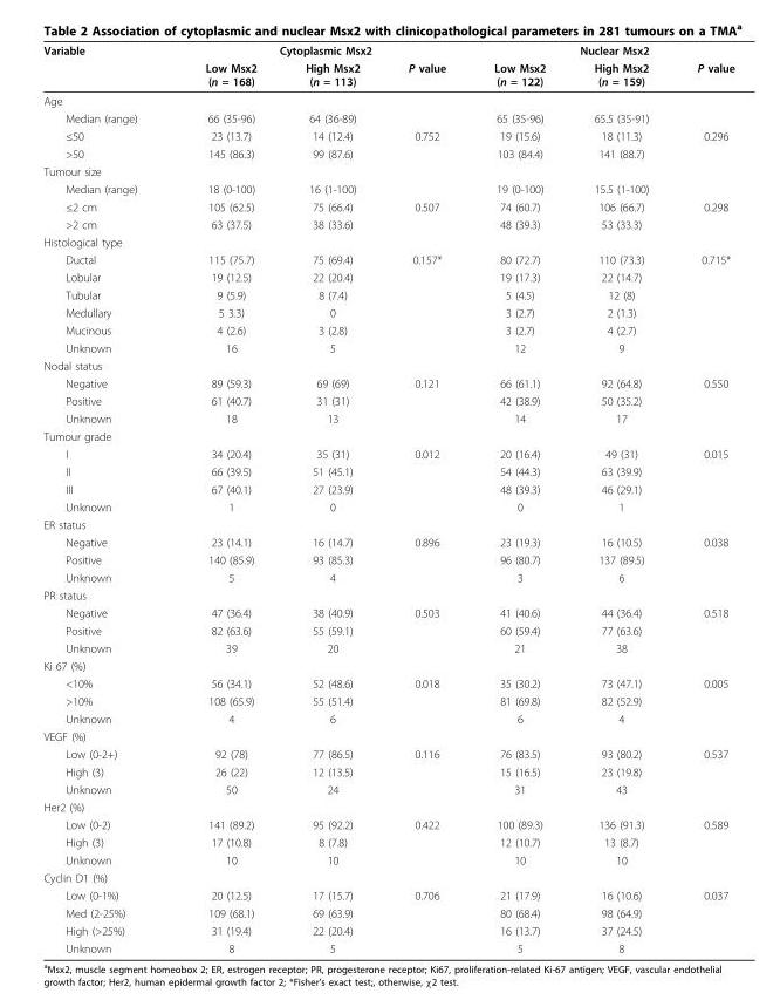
<table><thead><tr><td rowspan="2">Variable</td><td colspan="3">Cytoplasmic Msx2</td><td colspan="3">Nuclear Msx2</td></tr><tr><td>Low Msx2 (n = 168)</td><td>High Msx2 (n = 113)</td><td>P value</td><td>Low Msx2 (n = 122)</td><td>High Msx2 (n = 159)</td><td>P value</td></tr></thead><tbody><tr><td colspan="7">Age</td></tr><tr><td>Median (range)</td><td>66 (35-96)</td><td>64 (36-89)</td><td></td><td>65 (35-96)</td><td>65.5 (35-91)</td><td></td></tr><tr><td>≤50</td><td>23 (13.7)</td><td>14 (12.4)</td><td>0.752</td><td>19 (15.6)</td><td>18 (11.3)</td><td>0.296</td></tr><tr><td>&gt;50</td><td>145 (86.3)</td><td>99 (87.6)</td><td></td><td>103 (84.4)</td><td>141 (88.7)</td><td></td></tr><tr><td colspan="7">Tumour size</td></tr><tr><td>Median (range)</td><td>18 (0-100)</td><td>16 (1-100)</td><td></td><td>19 (0-100)</td><td>15.5 (1-100)</td><td></td></tr><tr><td>≤2 cm</td><td>105 (62.5)</td><td>75 (66.4)</td><td>0.507</td><td>74 (60.7)</td><td>106 (66.7)</td><td>0.298</td></tr><tr><td>&gt;2 cm</td><td>63 (37.5)</td><td>38 (33.6)</td><td></td><td>48 (39.3)</td><td>53 (33.3)</td><td></td></tr><tr><td colspan="7">Histological type</td></tr><tr><td>Ductal</td><td>115 (75.7)</td><td>75 (69.4)</td><td>0.157*</td><td>80 (72.7)</td><td>110 (73.3)</td><td>0.715*</td></tr><tr><td>Lobular</td><td>19 (12.5)</td><td>22 (20.4)</td><td></td><td>19 (17.3)</td><td>22 (14.7)</td><td></td></tr><tr><td>Tubular</td><td>9 (5.9)</td><td>8 (7.4)</td><td></td><td>5 (4.5)</td><td>12 (8)</td><td></td></tr><tr><td>Medullary</td><td>5 3.3)</td><td>0</td><td></td><td>3 (2.7)</td><td>2 (1.3)</td><td></td></tr><tr><td>Mucinous</td><td>4 (2.6)</td><td>3 (2.8)</td><td></td><td>3 (2.7)</td><td>4 (2.7)</td><td></td></tr><tr><td>Unknown</td><td>16</td><td>5</td><td></td><td>12</td><td>9</td><td></td></tr><tr><td colspan="7">Nodal status</td></tr><tr><td>Negative</td><td>89 (59.3)</td><td>69 (69)</td><td>0.121</td><td>66 (61.1)</td><td>92 (64.8)</td><td>0.550</td></tr><tr><td>Positive</td><td>61 (40.7)</td><td>31 (31)</td><td></td><td>42 (38.9)</td><td>50 (35.2)</td><td></td></tr><tr><td>Unknown</td><td>18</td><td>13</td><td></td><td>14</td><td>17</td><td></td></tr><tr><td colspan="7">Tumour grade</td></tr><tr><td>I</td><td>34 (20.4)</td><td>35 (31)</td><td>0.012</td><td>20 (16.4)</td><td>49 (31)</td><td>0.015</td></tr><tr><td>II</td><td>66 (39.5)</td><td>51 (45.1)</td><td></td><td>54 (44.3)</td><td>63 (39.9)</td><td></td></tr><tr><td>III</td><td>67 (40.1)</td><td>27 (23.9)</td><td></td><td>48 (39.3)</td><td>46 (29.1)</td><td></td></tr><tr><td>Unknown</td><td>1</td><td>0</td><td></td><td>0</td><td>1</td><td></td></tr><tr><td colspan="7">ER status</td></tr><tr><td>Negative</td><td>23 (14.1)</td><td>16 (14.7)</td><td>0.896</td><td>23 (19.3)</td><td>16 (10.5)</td><td>0.038</td></tr><tr><td>Positive</td><td>140 (85.9)</td><td>93 (85.3)</td><td></td><td>96 (80.7)</td><td>137 (89.5)</td><td></td></tr><tr><td>Unknown</td><td>5</td><td>4</td><td></td><td>3</td><td>6</td><td></td></tr><tr><td colspan="7">PR status</td></tr><tr><td>Negative</td><td>47 (36.4)</td><td>38 (40.9)</td><td>0.503</td><td>41 (40.6)</td><td>44 (36.4)</td><td>0.518</td></tr><tr><td>Positive</td><td>82 (63.6)</td><td>55 (59.1)</td><td></td><td>60 (59.4)</td><td>77 (63.6)</td><td></td></tr><tr><td>Unknown</td><td>39</td><td>20</td><td></td><td>21</td><td>38</td><td></td></tr><tr><td colspan="7">Ki 67 (%)</td></tr><tr><td>&lt;10%</td><td>56 (34.1)</td><td>52 (48.6)</td><td>0.018</td><td>35 (30.2)</td><td>73 (47.1)</td><td>0.005</td></tr><tr><td>&gt;10%</td><td>108 (65.9)</td><td>55 (51.4)</td><td></td><td>81 (69.8)</td><td>82 (52.9)</td><td></td></tr><tr><td>Unknown</td><td>4</td><td>6</td><td></td><td>6</td><td>4</td><td></td></tr><tr><td colspan="7">VEGF (%)</td></tr><tr><td>Low (0-2+)</td><td>92 (78)</td><td>77 (86.5)</td><td>0.116</td><td>76 (83.5)</td><td>93 (80.2)</td><td>0.537</td></tr><tr><td>High (3)</td><td>26 (22)</td><td>12 (13.5)</td><td></td><td>15 (16.5)</td><td>23 (19.8)</td><td></td></tr><tr><td>Unknown</td><td>50</td><td>24</td><td></td><td>31</td><td>43</td><td></td></tr><tr><td colspan="7">Her2 (%)</td></tr><tr><td>Low (0-2)</td><td>141 (89.2)</td><td>95 (92.2)</td><td>0.422</td><td>100 (89.3)</td><td>136 (91.3)</td><td>0.589</td></tr><tr><td>High (3)</td><td>17 (10.8)</td><td>8 (7.8)</td><td></td><td>12 (10.7)</td><td>13 (8.7)</td><td></td></tr><tr><td>Unknown</td><td>10</td><td>10</td><td></td><td>10</td><td>10</td><td></td></tr><tr><td colspan="7">Cyclin D1 (%)</td></tr><tr><td>Low (0-1%)</td><td>20 (12.5)</td><td>17 (15.7)</td><td>0.706</td><td>21 (17.9)</td><td>16 (10.6)</td><td>0.037</td></tr><tr><td>Med (2-25%)</td><td>109 (68.1)</td><td>69 (63.9)</td><td></td><td>80 (68.4)</td><td>98 (64.9)</td><td></td></tr><tr><td>High (&gt;25%)</td><td>31 (19.4)</td><td>22 (20.4)</td><td></td><td>16 (13.7)</td><td>37 (24.5)</td><td></td></tr><tr><td>Unknown</td><td>8</td><td>5</td><td></td><td>5</td><td>8</td><td></td></tr></tbody></table>